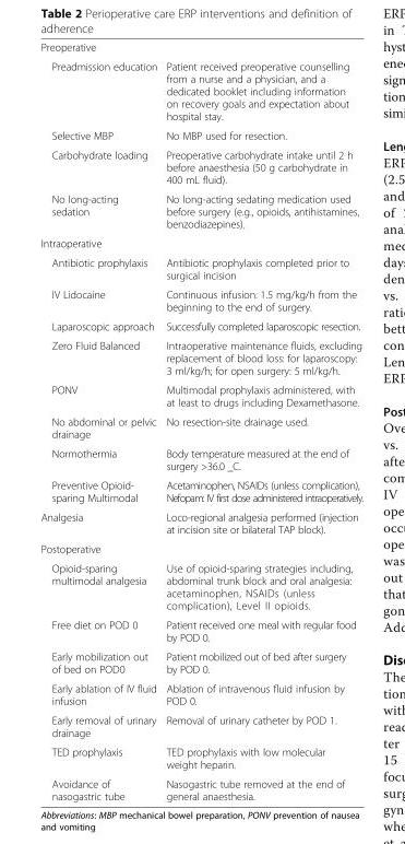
<table><tbody><tr><td colspan="2">Preoperative</td></tr><tr><td>Preadmission education</td><td>Patient received preoperative counselling from a nurse and a physician, and a dedicated booklet including information on recovery goals and expectation about hospital stay.</td></tr><tr><td>Selective MBP</td><td>No MBP used for resection.</td></tr><tr><td>Carbohydrate loading</td><td>Preoperative carbohydrate intake until 2 h before anaesthesia (50 g carbohydrate in 400 mL fluid).</td></tr><tr><td>No long-acting sedation</td><td>No long-acting sedating medication used before surgery (e.g., opioids, antihistamines, benzodiazepines).</td></tr><tr><td colspan="2">Intraoperative</td></tr><tr><td>Antibiotic prophylaxis</td><td>Antibiotic prophylaxis completed prior to surgical incision</td></tr><tr><td>IV Lidocaine</td><td>Continuous infusion: 1.5 mg/kg/h from the beginning to the end of surgery.</td></tr><tr><td>Laparoscopic approach</td><td>Successfully completed laparoscopic resection.</td></tr><tr><td>Zero Fluid Balanced</td><td>Intraoperative maintenance fluids, excluding replacement of blood loss: for laparoscopy: 3 ml/kg/h; for open surgery: 5 ml/kg/h.</td></tr><tr><td>PONV</td><td>Multimodal prophylaxis administered, with at least to drugs including Dexamethasone.</td></tr><tr><td>No abdominal or pelvic drainage</td><td>No resection-site drainage used.</td></tr><tr><td>Normothermia</td><td>Body temperature measured at the end of surgery &gt;36.0 _C.</td></tr><tr><td>Preventive Opioid- sparing Multimodal</td><td>Acetaminophen, NSAIDs (unless complication), Nefopam: IV first dose administered intraoperatively.</td></tr><tr><td>Analgesia</td><td>Loco-regional analgesia performed (injection at incision site or bilateral TAP block).</td></tr><tr><td colspan="2">Postoperative</td></tr><tr><td>Opioid-sparing multimodal analgesia</td><td>Use of opioid-sparing strategies including, abdominal trunk block and oral analgesia: acetaminophen, NSAIDs (unless complication), Level II opioids.</td></tr><tr><td>Free diet on POD 0</td><td>Patient received one meal with regular food by POD 0.</td></tr><tr><td>Early mobilization out of bed on POD0</td><td>Patient mobilized out of bed after surgery by POD 0.</td></tr><tr><td>Early ablation of IV fluid infusion</td><td>Ablation of intravenous fluid infusion by POD 0.</td></tr><tr><td>Early removal of urinary drainage</td><td>Removal of urinary catheter by POD 1.</td></tr><tr><td>TED prophylaxis</td><td>TED prophylaxis with low molecular weight heparin.</td></tr><tr><td>Avoidance of nasogastric tube</td><td>Nasogastric tube removed at the end of general anaesthesia.</td></tr></tbody></table>